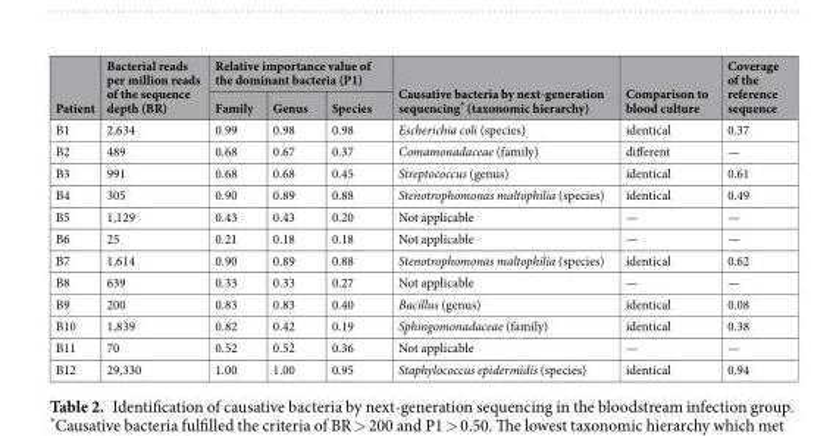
<table><thead><tr><td rowspan="2">Patient</td><td rowspan="2">Bacterial reads per million reads of the sequence depth (BR)</td><td colspan="3">Relative importance value of the dominant bacteria (P1)</td><td rowspan="2">Causative bacteria by next-generation sequencing* (taxonomic hierarchy)</td><td rowspan="2">Comparison to blood culture</td><td rowspan="2">Coverage of the reference sequence</td></tr><tr><td>Family</td><td>Genus</td><td>Species</td></tr></thead><tbody><tr><td>B1</td><td>2,634</td><td>0.99</td><td>0.98</td><td>0.98</td><td>Escherichia coli (species)</td><td>identical</td><td>0.37</td></tr><tr><td>B2</td><td>489</td><td>0.68</td><td>0.67</td><td>0.37</td><td>Comamonadaceae (family)</td><td>different</td><td>—</td></tr><tr><td>B3</td><td>991</td><td>0.68</td><td>0.68</td><td>0.45</td><td>Streptococcus (genus)</td><td>identical</td><td>0.61</td></tr><tr><td>B4</td><td>305</td><td>0.90</td><td>0.89</td><td>0.88</td><td>Stenotrophomonas maltophilia (species)</td><td>identical</td><td>0.49</td></tr><tr><td>B5</td><td>1,129</td><td>0.43</td><td>0.43</td><td>0.20</td><td>Not applicable</td><td>—</td><td>—</td></tr><tr><td>B6</td><td>25</td><td>0.21</td><td>0.18</td><td>0.18</td><td>Not applicable</td><td>—</td><td>—</td></tr><tr><td>B7</td><td>1,614</td><td>0.90</td><td>0.89</td><td>0.88</td><td>Stenotrophomonas maltophilia (species)</td><td>identical</td><td>0.62</td></tr><tr><td>B8</td><td>639</td><td>0.33</td><td>0.33</td><td>0.27</td><td>Not applicable</td><td>—</td><td>—</td></tr><tr><td>B9</td><td>200</td><td>0.83</td><td>0.83</td><td>0.40</td><td>Bacillus (genus)</td><td>identical</td><td>0.08</td></tr><tr><td>B10</td><td>1,839</td><td>0.82</td><td>0.42</td><td>0.19</td><td>Sphingomonadaceae (family)</td><td>identical</td><td>0.38</td></tr><tr><td>B11</td><td>70</td><td>0.52</td><td>0.52</td><td>0.36</td><td>Not applicable</td><td>—</td><td>—</td></tr><tr><td>B12</td><td>29,330</td><td>1.00</td><td>1.00</td><td>0.95</td><td>Staphylococcus epidermidis (species)</td><td>identical</td><td>0.94</td></tr></tbody></table>